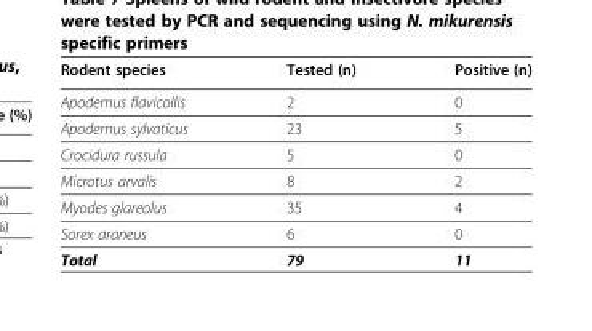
<table><thead><tr><td>Rodent species</td><td>Tested (n)</td><td>Positive (n)</td></tr></thead><tbody><tr><td>Apodemus flavicollis</td><td>2</td><td>0</td></tr><tr><td>Apodemus sylvaticus</td><td>23</td><td>5</td></tr><tr><td>Crocidura russula</td><td>5</td><td>0</td></tr><tr><td>Microtus arvalis</td><td>8</td><td>2</td></tr><tr><td>Myodes glareolus</td><td>35</td><td>4</td></tr><tr><td>Sorex araneus</td><td>6</td><td>0</td></tr><tr><td>Total</td><td>79</td><td>11</td></tr></tbody></table>